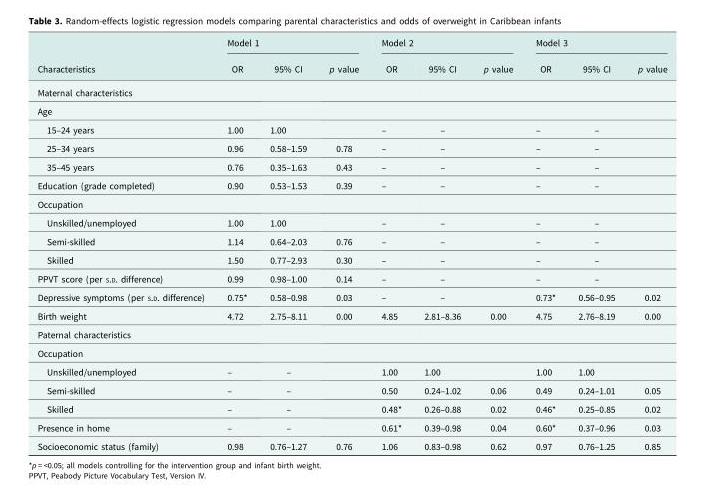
<table><thead><tr><td rowspan="2">Characteristics</td><td colspan="3">Model 1</td><td colspan="3">Model 2</td><td colspan="3">Model 3</td></tr><tr><td>OR</td><td>95% CI</td><td>p value</td><td>OR</td><td>95% CI</td><td>p value</td><td>OR</td><td>95% CI</td><td>p value</td></tr></thead><tbody><tr><td colspan="10">Maternal characteristics</td></tr><tr><td colspan="10">Age</td></tr><tr><td>15–24 years</td><td>1.00</td><td>1.00</td><td></td><td>–</td><td>–</td><td></td><td>–</td><td>–</td><td></td></tr><tr><td>25–34 years</td><td>0.96</td><td>0.58–1.59</td><td>0.78</td><td>–</td><td>–</td><td></td><td>–</td><td>–</td><td></td></tr><tr><td>35–45 years</td><td>0.76</td><td>0.35–1.63</td><td>0.43</td><td>–</td><td>–</td><td></td><td>–</td><td>–</td><td></td></tr><tr><td>Education (grade completed)</td><td>0.90</td><td>0.53–1.53</td><td>0.39</td><td>–</td><td>–</td><td></td><td>–</td><td>–</td><td></td></tr><tr><td colspan="10">Occupation</td></tr><tr><td>Unskilled/unemployed</td><td>1.00</td><td>1.00</td><td></td><td>–</td><td>–</td><td></td><td>–</td><td>–</td><td></td></tr><tr><td>Semi-skilled</td><td>1.14</td><td>0.64–2.03</td><td>0.76</td><td>–</td><td>–</td><td></td><td>–</td><td>–</td><td></td></tr><tr><td>Skilled</td><td>1.50</td><td>0.77–2.93</td><td>0.30</td><td>–</td><td>–</td><td></td><td>–</td><td>–</td><td></td></tr><tr><td>PPVT score (per S.D. difference)</td><td>0.99</td><td>0.98–1.00</td><td>0.14</td><td>–</td><td>–</td><td></td><td>–</td><td>–</td><td></td></tr><tr><td>Depressive symptoms (per S.D. difference)</td><td>0.75*</td><td>0.58–0.98</td><td>0.03</td><td>–</td><td>–</td><td></td><td>0.73*</td><td>0.56–0.95</td><td>0.02</td></tr><tr><td>Birth weight</td><td>4.72</td><td>2.75–8.11</td><td>0.00</td><td>4.85</td><td>2.81–8.36</td><td>0.00</td><td>4.75</td><td>2.76–8.19</td><td>0.00</td></tr><tr><td colspan="10">Paternal characteristics</td></tr><tr><td colspan="10">Occupation</td></tr><tr><td>Unskilled/unemployed</td><td>–</td><td>–</td><td></td><td>1.00</td><td>1.00</td><td></td><td>1.00</td><td>1.00</td><td></td></tr><tr><td>Semi-skilled</td><td>–</td><td>–</td><td></td><td>0.50</td><td>0.24–1.02</td><td>0.06</td><td>0.49</td><td>0.24–1.01</td><td>0.05</td></tr><tr><td>Skilled</td><td>–</td><td>–</td><td></td><td>0.48*</td><td>0.26–0.88</td><td>0.02</td><td>0.46*</td><td>0.25–0.85</td><td>0.02</td></tr><tr><td>Presence in home</td><td>–</td><td>–</td><td></td><td>0.61*</td><td>0.39–0.98</td><td>0.04</td><td>0.60*</td><td>0.37–0.96</td><td>0.03</td></tr><tr><td>Socioeconomic status (family)</td><td>0.98</td><td>0.76–1.27</td><td>0.76</td><td>1.06</td><td>0.83–0.98</td><td>0.62</td><td>0.97</td><td>0.76–1.25</td><td>0.85</td></tr></tbody></table>